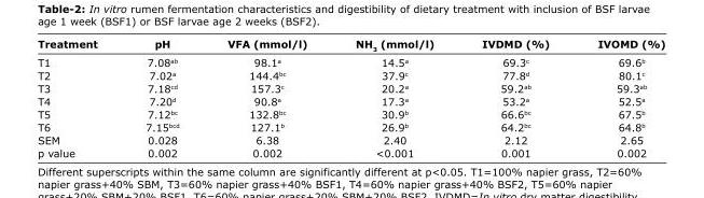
<table><thead><tr><td>Treatment</td><td>pH</td><td>VFA (mmol/l)</td><td>NH<sub>3</sub> (mmol/l)</td><td>IVDMD (%)</td><td>IVOMD (%)</td></tr></thead><tbody><tr><td>T1</td><td>7.08<sup>ab</sup></td><td>98.1<sup>a</sup></td><td>14.5<sup>a</sup></td><td>69.3<sup>c</sup></td><td>69.6<sup>b</sup></td></tr><tr><td>T2</td><td>7.02<sup>a</sup></td><td>144.4<sup>bc</sup></td><td>37.9<sup>c</sup></td><td>77.8<sup>d</sup></td><td>80.1<sup>c</sup></td></tr><tr><td>T3</td><td>7.18<sup>cd</sup></td><td>157.3<sup>c</sup></td><td>20.2<sup>a</sup></td><td>59.2<sup>ab</sup></td><td>59.3<sup>ab</sup></td></tr><tr><td>T4</td><td>7.20<sup>d</sup></td><td>90.8<sup>a</sup></td><td>17.3<sup>a</sup></td><td>53.2<sup>a</sup></td><td>52.5<sup>a</sup></td></tr><tr><td>T5</td><td>7.12<sup>bc</sup></td><td>132.8<sup>bc</sup></td><td>30.9<sup>b</sup></td><td>66.6<sup>bc</sup></td><td>67.5<sup>b</sup></td></tr><tr><td>T6</td><td>7.15<sup>bcd</sup></td><td>127.1<sup>b</sup></td><td>26.9<sup>b</sup></td><td>64.2<sup>bc</sup></td><td>64.8<sup>b</sup></td></tr><tr><td>SEM</td><td>0.028</td><td>6.38</td><td>2.40</td><td>2.12</td><td>2.65</td></tr><tr><td>p value</td><td>0.002</td><td>0.002</td><td>&lt;0.001</td><td>0.001</td><td>0.002</td></tr></tbody></table>